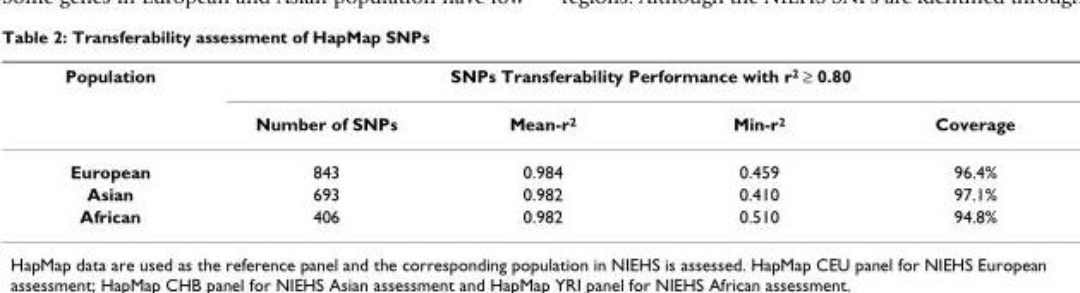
<table><thead><tr><td rowspan="2">Population</td><td colspan="4">SNPs Transferability Performance with r2 ≥ 0.80</td></tr><tr><td>Number of SNPs</td><td>Mean-r2</td><td>Min-r2</td><td>Coverage</td></tr></thead><tbody><tr><td>European</td><td>843</td><td>0.984</td><td>0.459</td><td>96.4%</td></tr><tr><td>Asian</td><td>693</td><td>0.982</td><td>0.410</td><td>97.1%</td></tr><tr><td>African</td><td>406</td><td>0.982</td><td>0.510</td><td>94.8%</td></tr></tbody></table>